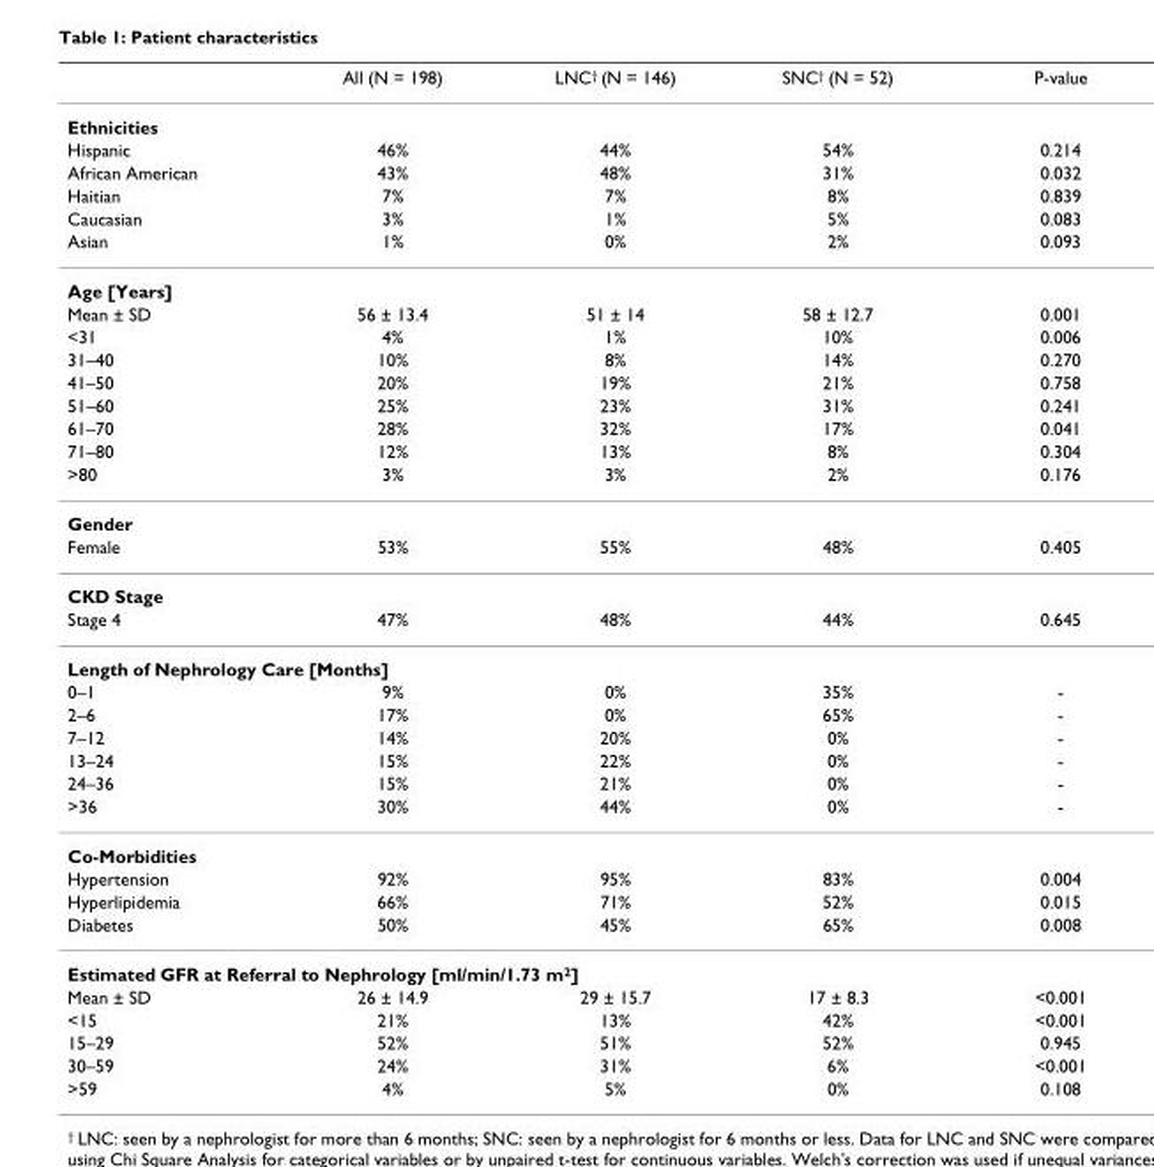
<table><thead><tr><td></td><td>All (N = 198)</td><td>LNC<sup>†</sup> (N = 146)</td><td>SNC<sup>†</sup> (N = 52)</td><td>P-value</td></tr></thead><tbody><tr><td colspan="5">Ethnicities</td></tr><tr><td>Hispanic</td><td>46%</td><td>44%</td><td>54%</td><td>0.214</td></tr><tr><td>African American</td><td>43%</td><td>48%</td><td>31%</td><td>0.032</td></tr><tr><td>Haitian</td><td>7%</td><td>7%</td><td>8%</td><td>0.839</td></tr><tr><td>Caucasian</td><td>3%</td><td>1%</td><td>5%</td><td>0.083</td></tr><tr><td>Asian</td><td>1%</td><td>0%</td><td>2%</td><td>0.093</td></tr><tr><td colspan="5">Age [Years]</td></tr><tr><td>Mean ± SD</td><td>56 ± 13.4</td><td>51 ± 14</td><td>58 ± 12.7</td><td>0.001</td></tr><tr><td>&lt;31</td><td>4%</td><td>1%</td><td>10%</td><td>0.006</td></tr><tr><td>31–40</td><td>10%</td><td>8%</td><td>14%</td><td>0.270</td></tr><tr><td>41–50</td><td>20%</td><td>19%</td><td>21%</td><td>0.758</td></tr><tr><td>51–60</td><td>25%</td><td>23%</td><td>31%</td><td>0.241</td></tr><tr><td>61–70</td><td>28%</td><td>32%</td><td>17%</td><td>0.041</td></tr><tr><td>71–80</td><td>12%</td><td>13%</td><td>8%</td><td>0.304</td></tr><tr><td>&gt;80</td><td>3%</td><td>3%</td><td>2%</td><td>0.176</td></tr><tr><td colspan="5">Gender</td></tr><tr><td>Female</td><td>53%</td><td>55%</td><td>48%</td><td>0.405</td></tr><tr><td colspan="5">CKD Stage</td></tr><tr><td>Stage 4</td><td>47%</td><td>48%</td><td>44%</td><td>0.645</td></tr><tr><td colspan="5">Length of Nephrology Care [Months]</td></tr><tr><td>0–1</td><td>9%</td><td>0%</td><td>35%</td><td>-</td></tr><tr><td>2–6</td><td>17%</td><td>0%</td><td>65%</td><td>-</td></tr><tr><td>7–12</td><td>14%</td><td>20%</td><td>0%</td><td>-</td></tr><tr><td>13–24</td><td>15%</td><td>22%</td><td>0%</td><td>-</td></tr><tr><td>24–36</td><td>15%</td><td>21%</td><td>0%</td><td>-</td></tr><tr><td>&gt;36</td><td>30%</td><td>44%</td><td>0%</td><td>-</td></tr><tr><td colspan="5">Co-Morbidities</td></tr><tr><td>Hypertension</td><td>92%</td><td>95%</td><td>83%</td><td>0.004</td></tr><tr><td>Hyperlipidemia</td><td>66%</td><td>71%</td><td>52%</td><td>0.015</td></tr><tr><td>Diabetes</td><td>50%</td><td>45%</td><td>65%</td><td>0.008</td></tr><tr><td colspan="5">Estimated GFR at Referral to Nephrology [ml/min/1.73 m<sup>2</sup>]</td></tr><tr><td>Mean ± SD</td><td>26 ± 14.9</td><td>29 ± 15.7</td><td>17 ± 8.3</td><td>&lt;0.001</td></tr><tr><td>&lt;15</td><td>21%</td><td>13%</td><td>42%</td><td>&lt;0.001</td></tr><tr><td>15–29</td><td>52%</td><td>51%</td><td>52%</td><td>0.945</td></tr><tr><td>30–59</td><td>24%</td><td>31%</td><td>6%</td><td>&lt;0.001</td></tr><tr><td>&gt;59</td><td>4%</td><td>5%</td><td>0%</td><td>0.108</td></tr></tbody></table>